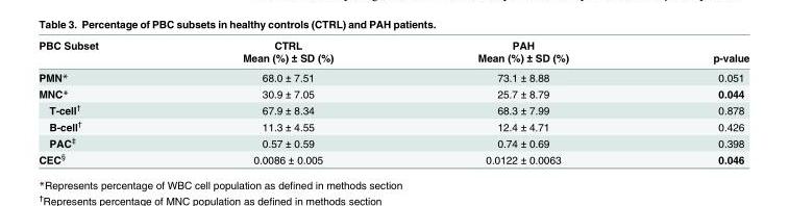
<table><thead><tr><td rowspan="2">PBC Subset</td><td rowspan="2">CTRL Mean (%) ± SD (%)</td><td rowspan="2">PAH Mean (%) ± SD (%)</td><td rowspan="2">p-value</td></tr><tr></tr></thead><tbody><tr><td>PMN*</td><td>68.0 ± 7.51</td><td>73.1 ± 8.88</td><td>0.051</td></tr><tr><td>MNC*</td><td>30.9 ± 7.05</td><td>25.7 ± 8.79</td><td>0.044</td></tr><tr><td>T-cell<sup>†</sup></td><td>67.9 ± 8.34</td><td>68.3 ± 7.99</td><td>0.878</td></tr><tr><td>B-cell<sup>†</sup></td><td>11.3 ± 4.55</td><td>12.4 ± 4.71</td><td>0.426</td></tr><tr><td>PAC<sup>‡</sup></td><td>0.57 ± 0.59</td><td>0.74 ± 0.69</td><td>0.398</td></tr><tr><td>CEC<sup>§</sup></td><td>0.0086 ± 0.005</td><td>0.0122 ± 0.0063</td><td>0.046</td></tr></tbody></table>